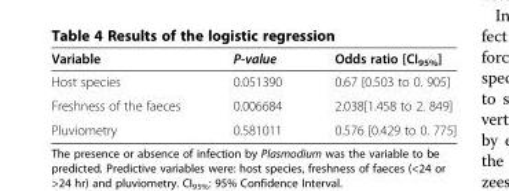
<table><thead><tr><td>Variable</td><td>P-value</td><td>Odds ratio [CI<sub>95%</sub>]</td></tr></thead><tbody><tr><td>Host species</td><td>0.051390</td><td>0.67 [0.503 to 0. 905]</td></tr><tr><td>Freshness of the faeces</td><td>0.006684</td><td>2.038[1.458 to 2. 849]</td></tr><tr><td>Pluviometry</td><td>0.581011</td><td>0.576 [0.429 to 0. 775]</td></tr></tbody></table>